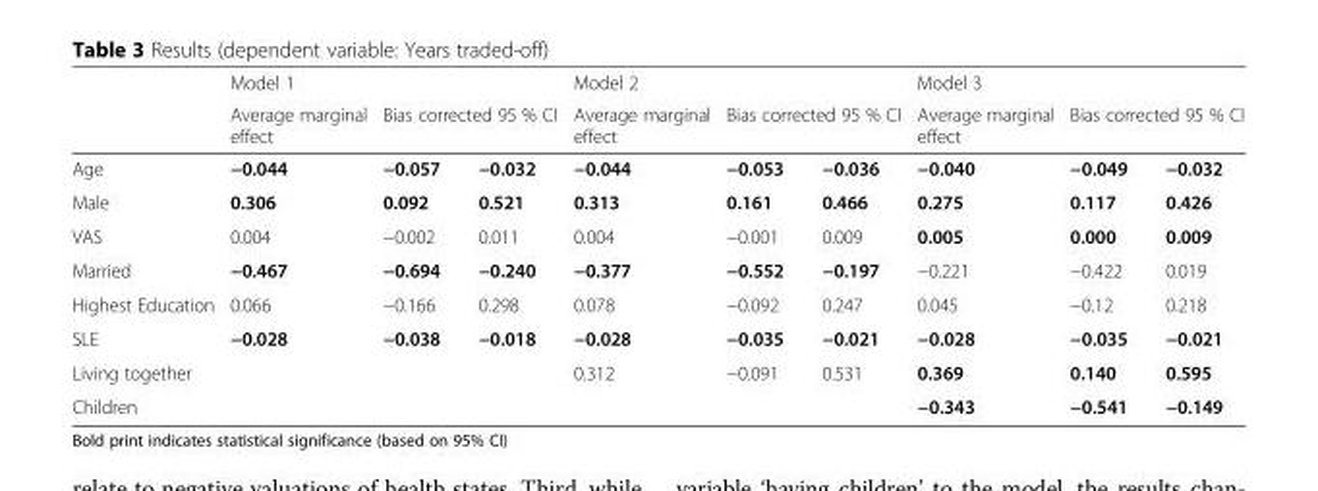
<table><thead><tr><td rowspan="3">Age</td><td colspan="3">Model 1</td><td colspan="3">Model 2</td><td colspan="3">Model 3</td></tr><tr><td rowspan="2">Average marginal effect −0.044</td><td colspan="2">Bias corrected 95 % CI</td><td rowspan="2">Average marginal effect −0.044</td><td colspan="2">Bias corrected 95 % CI</td><td rowspan="2">Average marginal effect −0.040</td><td colspan="2">Bias corrected 95 % CI</td></tr><tr><td>−0.057</td><td>−0.032</td><td>−0.053</td><td>−0.036</td><td>−0.049</td><td>−0.032</td></tr></thead><tbody><tr><td>Male</td><td>0.306</td><td>0.092</td><td>0.521</td><td>0.313</td><td>0.161</td><td>0.466</td><td>0.275</td><td>0.117</td><td>0.426</td></tr><tr><td>VAS</td><td>0.004</td><td>−0.002</td><td>0.011</td><td>0.004</td><td>−0.001</td><td>0.009</td><td>0.005</td><td>0.000</td><td>0.009</td></tr><tr><td>Married</td><td>−0.467</td><td>−0.694</td><td>−0.240</td><td>−0.377</td><td>−0.552</td><td>−0.197</td><td>−0.221</td><td>−0.422</td><td>0.019</td></tr><tr><td>Highest Education</td><td>0.066</td><td>−0.166</td><td>0.298</td><td>0.078</td><td>−0.092</td><td>0.247</td><td>0.045</td><td>−0.12</td><td>0.218</td></tr><tr><td>SLE</td><td>−0.028</td><td>−0.038</td><td>−0.018</td><td>−0.028</td><td>−0.035</td><td>−0.021</td><td>−0.028</td><td>−0.035</td><td>−0.021</td></tr><tr><td>Living together</td><td></td><td></td><td></td><td>0.312</td><td>−0.091</td><td>0.531</td><td>0.369</td><td>0.140</td><td>0.595</td></tr><tr><td>Children</td><td></td><td></td><td></td><td></td><td></td><td></td><td>−0.343</td><td>−0.541</td><td>−0.149</td></tr></tbody></table>